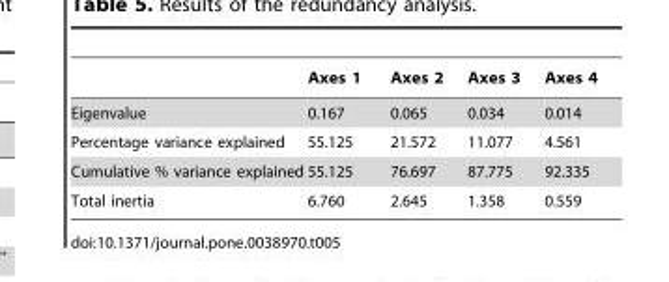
<table><thead><tr><td></td><td>Axes 1</td><td>Axes 2</td><td>Axes 3</td><td>Axes 4</td></tr></thead><tbody><tr><td>Eigenvalue</td><td>0.167</td><td>0.065</td><td>0.034</td><td>0.014</td></tr><tr><td>Percentage variance explained</td><td>55.125</td><td>21.572</td><td>11.077</td><td>4.561</td></tr><tr><td>Cumulative % variance explained</td><td>55.125</td><td>76.697</td><td>87.775</td><td>92.335</td></tr><tr><td>Total inertia</td><td>6.760</td><td>2.645</td><td>1.358</td><td>0.559</td></tr></tbody></table>